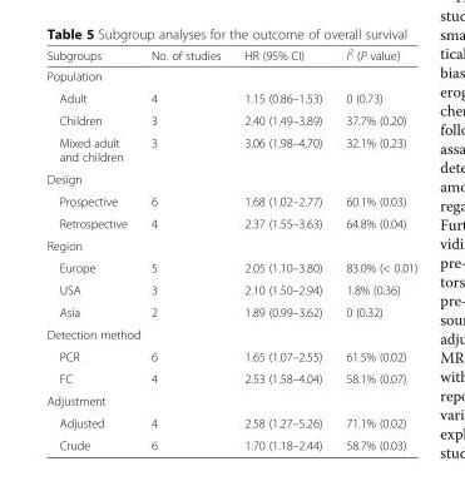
<table><thead><tr><td>Subgroups</td><td>No. of studies</td><td>HR (95% CI)</td><td>I<sup>2</sup> (P value)</td></tr></thead><tbody><tr><td colspan="4">Population</td></tr><tr><td>Adult</td><td>4</td><td>1.15 (0.86–1.53)</td><td>0 (0.73)</td></tr><tr><td>Children</td><td>3</td><td>2.40 (1.49–3.89)</td><td>37.7% (0.20)</td></tr><tr><td>Mixed adult and children</td><td>3</td><td>3.06 (1.98–4.70)</td><td>32.1% (0.23)</td></tr><tr><td colspan="4">Design</td></tr><tr><td>Prospective</td><td>6</td><td>1.68 (1.02–2.77)</td><td>60.1% (0.03)</td></tr><tr><td>Retrospective</td><td>4</td><td>2.37 (1.55–3.63)</td><td>64.8% (0.04)</td></tr><tr><td colspan="4">Region</td></tr><tr><td>Europe</td><td>5</td><td>2.05 (1.10–3.80)</td><td>83.0% (&lt; 0.01)</td></tr><tr><td>USA</td><td>3</td><td>2.10 (1.50–2.94)</td><td>1.8% (0.36)</td></tr><tr><td>Asia</td><td>2</td><td>1.89 (0.99–3.62)</td><td>0 (0.32)</td></tr><tr><td colspan="4">Detection method</td></tr><tr><td>PCR</td><td>6</td><td>1.65 (1.07–2.55)</td><td>61.5% (0.02)</td></tr><tr><td>FC</td><td>4</td><td>2.53 (1.58–4.04)</td><td>58.1% (0.07)</td></tr><tr><td colspan="4">Adjustment</td></tr><tr><td>Adjusted</td><td>4</td><td>2.58 (1.27–5.26)</td><td>71.1% (0.02)</td></tr><tr><td>Crude</td><td>6</td><td>1.70 (1.18–2.44)</td><td>58.7% (0.03)</td></tr></tbody></table>